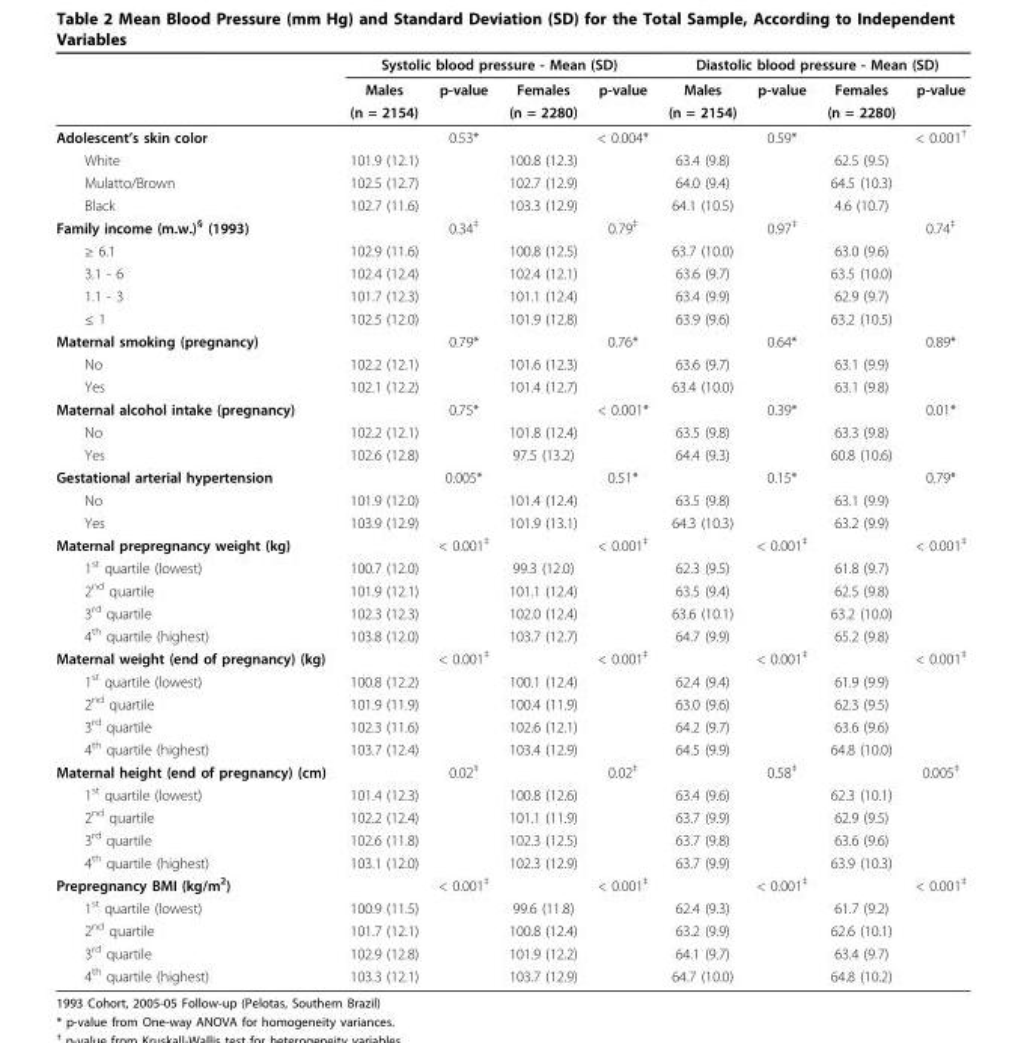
<table><thead><tr><td rowspan="3"></td><td colspan="4">Systolic blood pressure - Mean (SD)</td><td colspan="4">Diastolic blood pressure - Mean (SD)</td></tr><tr><td rowspan="2">Males (n = 2154)</td><td rowspan="2">p-value</td><td rowspan="2">Females (n = 2280)</td><td rowspan="2">p-value</td><td rowspan="2">Males (n = 2154)</td><td rowspan="2">p-value</td><td rowspan="2">Females (n = 2280)</td><td rowspan="2">p-value</td></tr><tr></tr></thead><tbody><tr><td>Adolescent’s skin color</td><td></td><td>0.53*</td><td></td><td>&lt; 0.004*</td><td></td><td>0.59*</td><td></td><td>&lt; 0.001<sup>†</sup></td></tr><tr><td>White</td><td>101.9 (12.1)</td><td></td><td>100.8 (12.3)</td><td></td><td>63.4 (9.8)</td><td></td><td>62.5 (9.5)</td><td></td></tr><tr><td>Mulatto/Brown</td><td>102.5 (12.7)</td><td></td><td>102.7 (12.9)</td><td></td><td>64.0 (9.4)</td><td></td><td>64.5 (10.3)</td><td></td></tr><tr><td>Black</td><td>102.7 (11.6)</td><td></td><td>103.3 (12.9)</td><td></td><td>64.1 (10.5)</td><td></td><td>4.6 (10.7)</td><td></td></tr><tr><td>Family income (m.w.)<sup>§</sup> (1993)</td><td></td><td>0.34<sup>‡</sup></td><td></td><td>0.79<sup>‡</sup></td><td></td><td>0.97<sup>‡</sup></td><td></td><td>0.74<sup>‡</sup></td></tr><tr><td>≥ 6.1</td><td>102.9 (11.6)</td><td></td><td>100.8 (12.5)</td><td></td><td>63.7 (10.0)</td><td></td><td>63.0 (9.6)</td><td></td></tr><tr><td>3.1 - 6</td><td>102.4 (12.4)</td><td></td><td>102.4 (12.1)</td><td></td><td>63.6 (9.7)</td><td></td><td>63.5 (10.0)</td><td></td></tr><tr><td>1.1 - 3</td><td>101.7 (12.3)</td><td></td><td>101.1 (12.4)</td><td></td><td>63.4 (9.9)</td><td></td><td>62.9 (9.7)</td><td></td></tr><tr><td>≤ 1</td><td>102.5 (12.0)</td><td></td><td>101.9 (12.8)</td><td></td><td>63.9 (9.6)</td><td></td><td>63.2 (10.5)</td><td></td></tr><tr><td>Maternal smoking (pregnancy)</td><td></td><td>0.79*</td><td></td><td>0.76*</td><td></td><td>0.64*</td><td></td><td>0.89*</td></tr><tr><td>No</td><td>102.2 (12.1)</td><td></td><td>101.6 (12.3)</td><td></td><td>63.6 (9.7)</td><td></td><td>63.1 (9.9)</td><td></td></tr><tr><td>Yes</td><td>102.1 (12.2)</td><td></td><td>101.4 (12.7)</td><td></td><td>63.4 (10.0)</td><td></td><td>63.1 (9.8)</td><td></td></tr><tr><td>Maternal alcohol intake (pregnancy)</td><td></td><td>0.75*</td><td></td><td>&lt; 0.001*</td><td></td><td>0.39*</td><td></td><td>0.01*</td></tr><tr><td>No</td><td>102.2 (12.1)</td><td></td><td>101.8 (12.4)</td><td></td><td>63.5 (9.8)</td><td></td><td>63.3 (9.8)</td><td></td></tr><tr><td>Yes</td><td>102.6 (12.8)</td><td></td><td>97.5 (13.2)</td><td></td><td>64.4 (9.3)</td><td></td><td>60.8 (10.6)</td><td></td></tr><tr><td>Gestational arterial hypertension</td><td></td><td>0.005*</td><td></td><td>0.51*</td><td></td><td>0.15*</td><td></td><td>0.79*</td></tr><tr><td>No</td><td>101.9 (12.0)</td><td></td><td>101.4 (12.4)</td><td></td><td>63.5 (9.8)</td><td></td><td>63.1 (9.9)</td><td></td></tr><tr><td>Yes</td><td>103.9 (12.9)</td><td></td><td>101.9 (13.1)</td><td></td><td>64.3 (10.3)</td><td></td><td>63.2 (9.9)</td><td></td></tr><tr><td>Maternal prepregnancy weight (kg)</td><td></td><td>&lt; 0.001<sup>‡</sup></td><td></td><td>&lt; 0.001<sup>‡</sup></td><td></td><td>&lt; 0.001<sup>‡</sup></td><td></td><td>&lt; 0.001<sup>‡</sup></td></tr><tr><td>1<sup>st</sup> quartile (lowest)</td><td>100.7 (12.0)</td><td></td><td>99.3 (12.0)</td><td></td><td>62.3 (9.5)</td><td></td><td>61.8 (9.7)</td><td></td></tr><tr><td>2<sup>nd</sup> quartile</td><td>101.9 (12.1)</td><td></td><td>101.1 (12.4)</td><td></td><td>63.5 (9.4)</td><td></td><td>62.5 (9.8)</td><td></td></tr><tr><td>3<sup>rd</sup> quartile</td><td>102.3 (12.3)</td><td></td><td>102.0 (12.4)</td><td></td><td>63.6 (10.1)</td><td></td><td>63.2 (10.0)</td><td></td></tr><tr><td>4<sup>th</sup> quartile (highest)</td><td>103.8 (12.0)</td><td></td><td>103.7 (12.7)</td><td></td><td>64.7 (9.9)</td><td></td><td>65.2 (9.8)</td><td></td></tr><tr><td>Maternal weight (end of pregnancy) (kg)</td><td></td><td>&lt; 0.001<sup>‡</sup></td><td></td><td>&lt; 0.001<sup>‡</sup></td><td></td><td>&lt; 0.001<sup>‡</sup></td><td></td><td>&lt; 0.001<sup>‡</sup></td></tr><tr><td>1<sup>st</sup> quartile (lowest)</td><td>100.8 (12.2)</td><td></td><td>100.1 (12.4)</td><td></td><td>62.4 (9.4)</td><td></td><td>61.9 (9.9)</td><td></td></tr><tr><td>2<sup>nd</sup> quartile</td><td>101.9 (11.9)</td><td></td><td>100.4 (11.9)</td><td></td><td>63.0 (9.6)</td><td></td><td>62.3 (9.5)</td><td></td></tr><tr><td>3<sup>rd</sup> quartile</td><td>102.3 (11.6)</td><td></td><td>102.6 (12.1)</td><td></td><td>64.2 (9.7)</td><td></td><td>63.6 (9.6)</td><td></td></tr><tr><td>4<sup>th</sup> quartile (highest)</td><td>103.7 (12.4)</td><td></td><td>103.4 (12.9)</td><td></td><td>64.5 (9.9)</td><td></td><td>64.8 (10.0)</td><td></td></tr><tr><td>Maternal height (end of pregnancy) (cm)</td><td></td><td>0.02<sup>‡</sup></td><td></td><td>0.02<sup>‡</sup></td><td></td><td>0.58<sup>‡</sup></td><td></td><td>0.005<sup>‡</sup></td></tr><tr><td>1<sup>st</sup> quartile (lowest)</td><td>101.4 (12.3)</td><td></td><td>100.8 (12.6)</td><td></td><td>63.4 (9.6)</td><td></td><td>62.3 (10.1)</td><td></td></tr><tr><td>2<sup>nd</sup> quartile</td><td>102.2 (12.4)</td><td></td><td>101.1 (11.9)</td><td></td><td>63.7 (9.9)</td><td></td><td>62.9 (9.5)</td><td></td></tr><tr><td>3<sup>rd</sup> quartile</td><td>102.6 (11.8)</td><td></td><td>102.3 (12.5)</td><td></td><td>63.7 (9.8)</td><td></td><td>63.6 (9.6)</td><td></td></tr><tr><td>4<sup>th</sup> quartile (highest)</td><td>103.1 (12.0)</td><td></td><td>102.3 (12.9)</td><td></td><td>63.7 (9.9)</td><td></td><td>63.9 (10.3)</td><td></td></tr><tr><td>Prepregnancy BMI (kg/m<sup>2</sup>)</td><td></td><td>&lt; 0.001<sup>‡</sup></td><td></td><td>&lt; 0.001<sup>‡</sup></td><td></td><td>&lt; 0.001<sup>‡</sup></td><td></td><td>&lt; 0.001<sup>‡</sup></td></tr><tr><td>1<sup>st</sup> quartile (lowest)</td><td>100.9 (11.5)</td><td></td><td>99.6 (11.8)</td><td></td><td>62.4 (9.3)</td><td></td><td>61.7 (9.2)</td><td></td></tr><tr><td>2<sup>nd</sup> quartile</td><td>101.7 (12.1)</td><td></td><td>100.8 (12.4)</td><td></td><td>63.2 (9.9)</td><td></td><td>62.6 (10.1)</td><td></td></tr><tr><td>3<sup>rd</sup> quartile</td><td>102.9 (12.8)</td><td></td><td>101.9 (12.2)</td><td></td><td>64.1 (9.7)</td><td></td><td>63.4 (9.7)</td><td></td></tr><tr><td>4<sup>th</sup> quartile (highest)</td><td>103.3 (12.1)</td><td></td><td>103.7 (12.9)</td><td></td><td>64.7 (10.0)</td><td></td><td>64.8 (10.2)</td><td></td></tr></tbody></table>